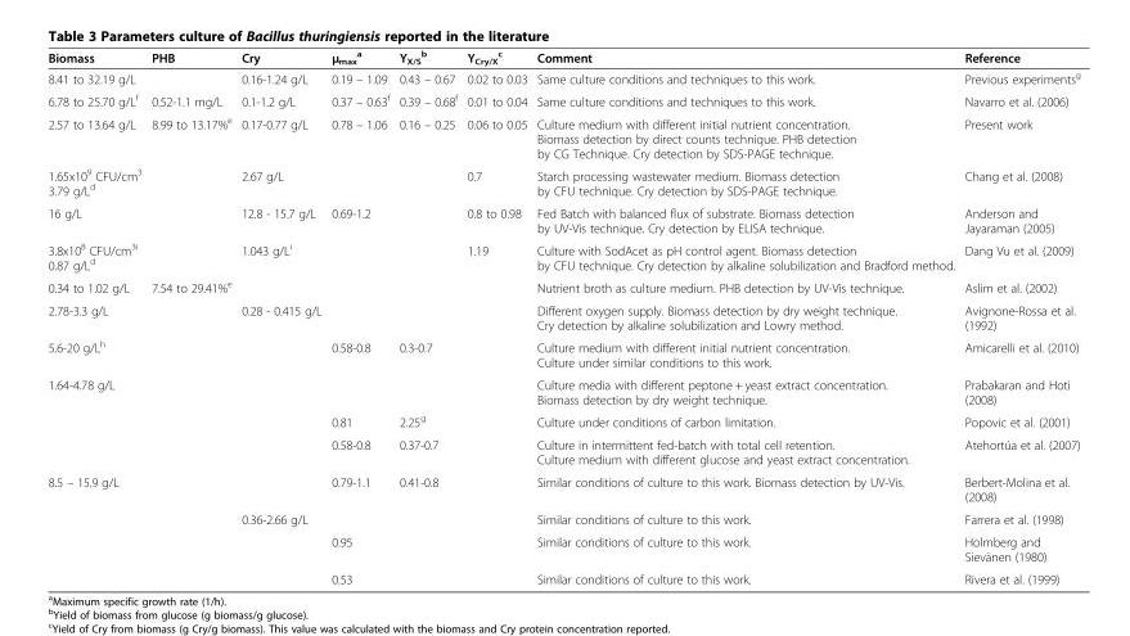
<table><thead><tr><td>Biomass</td><td>PHB</td><td>Cry</td><td>μ<sub>max</sub> <sup>a</sup></td><td>Y<sub>X/S</sub> <sup>b</sup></td><td>Y<sub>Cry/X</sub> <sup>c</sup></td><td>Comment</td><td>Reference</td></tr></thead><tbody><tr><td>8.41 to 32.19 g/L</td><td></td><td>0.16-1.24 g/L</td><td>0.19 – 1.09</td><td>0.43 – 0.67</td><td>0.02 to 0.03</td><td>Same culture conditions and techniques to this work.</td><td>Previous experiments<sup>g</sup></td></tr><tr><td>6.78 to 25.70 g/L<sup>f</sup></td><td>0.52-1.1 mg/L</td><td>0.1-1.2 g/L</td><td>0.37 – 0.63<sup>f</sup></td><td>0.39 – 0.68<sup>f</sup></td><td>0.01 to 0.04</td><td>Same culture conditions and techniques to this work.</td><td>Navarro et al. (2006)</td></tr><tr><td>2.57 to 13.64 g/L</td><td>8.99 to 13.17%<sup>e</sup></td><td>0.17-0.77 g/L</td><td>0.78 – 1.06</td><td>0.16 – 0.25</td><td>0.06 to 0.05</td><td>Culture medium with different initial nutrient concentration. Biomass detection by direct counts technique. PHB detection by CG Technique. Cry detection by SDS-PAGE technique.</td><td>Present work</td></tr><tr><td>1.65x10<sup>9</sup> CFU/cm<sup>3</sup> 3.79 g/L<sup>d</sup></td><td></td><td>2.67 g/L</td><td></td><td></td><td>0.7</td><td>Starch processing wastewater medium. Biomass detection by CFU technique. Cry detection by SDS-PAGE technique.</td><td>Chang et al. (2008)</td></tr><tr><td>16 g/L</td><td></td><td>12.8 - 15.7 g/L</td><td>0.69-1.2</td><td></td><td>0.8 to 0.98</td><td>Fed Batch with balanced flux of substrate. Biomass detection by UV-Vis technique. Cry detection by ELISA technique.</td><td>Anderson and Jayaraman (2005)</td></tr><tr><td>3.8x10<sup>8</sup> CFU/cm<sup>3i</sup> 0.87 g/L<sup>d</sup></td><td></td><td>1.043 g/L<sup>i</sup></td><td></td><td></td><td>1.19</td><td>Culture with SodAcet as pH control agent. Biomass detection by CFU technique. Cry detection by alkaline solubilization and Bradford method.</td><td>Dang Vu et al. (2009)</td></tr><tr><td>0.34 to 1.02 g/L</td><td>7.54 to 29.41%<sup>e</sup></td><td></td><td></td><td></td><td></td><td>Nutrient broth as culture medium. PHB detection by UV-Vis technique.</td><td>Aslim et al. (2002)</td></tr><tr><td>2.78-3.3 g/L</td><td></td><td>0.28 - 0.415 g/L</td><td></td><td></td><td></td><td>Different oxygen supply. Biomass detection by dry weight technique. Cry detection by alkaline solubilization and Lowry method.</td><td>Avignone-Rossa et al. (1992)</td></tr><tr><td>5.6-20 g/L<sup>h</sup></td><td></td><td></td><td>0.58-0.8</td><td>0.3-0.7</td><td></td><td>Culture medium with different initial nutrient concentration. Culture under similar conditions to this work.</td><td>Amicarelli et al. (2010)</td></tr><tr><td rowspan="3">1.64-4.78 g/L</td><td></td><td></td><td></td><td></td><td></td><td>Culture media with different peptone + yeast extract concentration. Biomass detection by dry weight technique.</td><td>Prabakaran and Hoti (2008)</td></tr><tr><td></td><td></td><td>0.81</td><td>2.25<sup>g</sup></td><td></td><td>Culture under conditions of carbon limitation.</td><td>Popovic et al. (2001)</td></tr><tr><td></td><td></td><td>0.58-0.8</td><td>0.37-0.7</td><td></td><td>Culture in intermittent fed-batch with total cell retention. Culture medium with different glucose and yeast extract concentration.</td><td>Atehortúa et al. (2007)</td></tr><tr><td rowspan="4">8.5 – 15.9 g/L</td><td></td><td></td><td>0.79-1.1</td><td>0.41-0.8</td><td></td><td>Similar conditions of culture to this work. Biomass detection by UV-Vis.</td><td>Berbert-Molina et al. (2008)</td></tr><tr><td></td><td>0.36-2.66 g/L</td><td></td><td></td><td></td><td>Similar conditions of culture to this work.</td><td>Farrera et al. (1998)</td></tr><tr><td></td><td></td><td>0.95</td><td></td><td></td><td>Similar conditions of culture to this work.</td><td>Holmberg and Sievänen (1980)</td></tr><tr><td></td><td></td><td>0.53</td><td></td><td></td><td>Similar conditions of culture to this work.</td><td>Rivera et al. (1999)</td></tr></tbody></table>